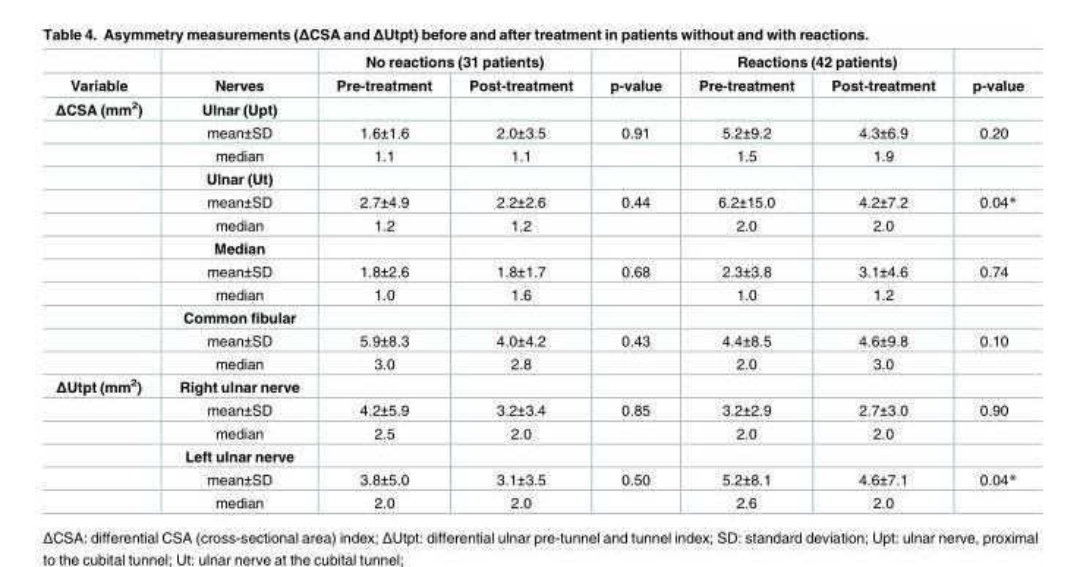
<table><thead><tr><td rowspan="2">Variable</td><td rowspan="2">Nerves</td><td colspan="2">No reactions (31 patients)</td><td rowspan="2">p-value</td><td colspan="2">Reactions (42 patients)</td><td rowspan="2">p-value</td></tr><tr><td>Pre-treatment</td><td>Post-treatment</td><td>Pre-treatment</td><td>Post-treatment</td></tr></thead><tbody><tr><td rowspan="12">ΔCSA (mm<sup>2</sup>)</td><td>Ulnar (Upt)</td><td></td><td></td><td></td><td></td><td></td><td></td></tr><tr><td>mean±SD</td><td>1.6±1.6</td><td>2.0±3.5</td><td>0.91</td><td>5.2±9.2</td><td>4.3±6.9</td><td>0.20</td></tr><tr><td>median</td><td>1.1</td><td>1.1</td><td></td><td>1.5</td><td>1.9</td><td></td></tr><tr><td>Ulnar (Ut)</td><td></td><td></td><td></td><td></td><td></td><td></td></tr><tr><td>mean±SD</td><td>2.7±4.9</td><td>2.2±2.6</td><td>0.44</td><td>6.2±15.0</td><td>4.2±7.2</td><td>0.04*</td></tr><tr><td>median</td><td>1.2</td><td>1.2</td><td></td><td>2.0</td><td>2.0</td><td></td></tr><tr><td>Median</td><td></td><td></td><td></td><td></td><td></td><td></td></tr><tr><td>mean±SD</td><td>1.8±2.6</td><td>1.8±1.7</td><td>0.68</td><td>2.3±3.8</td><td>3.1±4.6</td><td>0.74</td></tr><tr><td>median</td><td>1.0</td><td>1.6</td><td></td><td>1.0</td><td>1.2</td><td></td></tr><tr><td>Common fibular</td><td></td><td></td><td></td><td></td><td></td><td></td></tr><tr><td>mean±SD</td><td>5.9±8.3</td><td>4.0±4.2</td><td>0.43</td><td>4.4±8.5</td><td>4.6±9.8</td><td>0.10</td></tr><tr><td>median</td><td>3.0</td><td>2.8</td><td></td><td>2.0</td><td>3.0</td><td></td></tr><tr><td rowspan="6">ΔUtpt (mm<sup>2</sup>)</td><td>Right ulnar nerve</td><td></td><td></td><td></td><td></td><td></td><td></td></tr><tr><td>mean±SD</td><td>4.2±5.9</td><td>3.2±3.4</td><td>0.85</td><td>3.2±2.9</td><td>2.7±3.0</td><td>0.90</td></tr><tr><td>median</td><td>2.5</td><td>2.0</td><td></td><td>2.0</td><td>2.0</td><td></td></tr><tr><td>Left ulnar nerve</td><td></td><td></td><td></td><td></td><td></td><td></td></tr><tr><td>mean±SD</td><td>3.8±5.0</td><td>3.1±3.5</td><td>0.50</td><td>5.2±8.1</td><td>4.6±7.1</td><td>0.04*</td></tr><tr><td>median</td><td>2.0</td><td>2.0</td><td></td><td>2.6</td><td>2.0</td><td></td></tr></tbody></table>